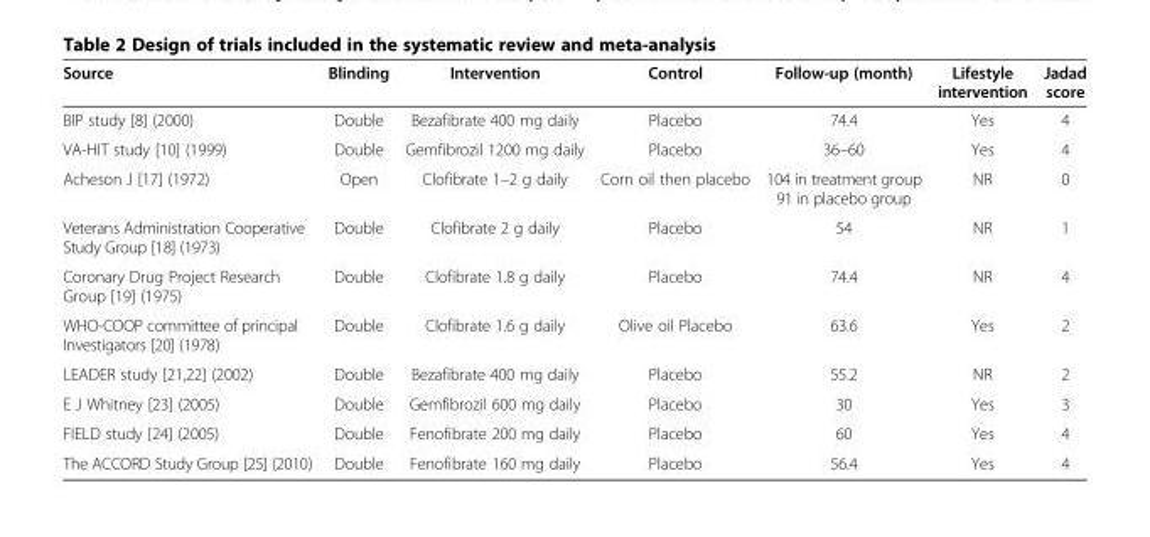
<table><thead><tr><td>Source</td><td>Blinding</td><td>Intervention</td><td>Control</td><td>Follow-up (month)</td><td>Lifestyle intervention</td><td>Jadad score</td></tr></thead><tbody><tr><td>BIP study [8] (2000)</td><td>Double</td><td>Bezafibrate 400 mg daily</td><td>Placebo</td><td>74.4</td><td>Yes</td><td>4</td></tr><tr><td>VA-HIT study [10] (1999)</td><td>Double</td><td>Gemfibrozil 1200 mg daily</td><td>Placebo</td><td>36–60</td><td>Yes</td><td>4</td></tr><tr><td>Acheson J [17] (1972)</td><td>Open</td><td>Clofibrate 1–2 g daily</td><td>Corn oil then placebo</td><td>104 in treatment group 91 in placebo group</td><td>NR</td><td>0</td></tr><tr><td>Veterans Administration Cooperative Study Group [18] (1973)</td><td>Double</td><td>Clofibrate 2 g daily</td><td>Placebo</td><td>54</td><td>NR</td><td>1</td></tr><tr><td>Coronary Drug Project Research Group [19] (1975)</td><td>Double</td><td>Clofibrate 1.8 g daily</td><td>Placebo</td><td>74.4</td><td>NR</td><td>4</td></tr><tr><td>WHO-COOP committee of principal Investigators [20] (1978)</td><td>Double</td><td>Clofibrate 1.6 g daily</td><td>Olive oil Placebo</td><td>63.6</td><td>Yes</td><td>2</td></tr><tr><td>LEADER study [21,22] (2002)</td><td>Double</td><td>Bezafibrate 400 mg daily</td><td>Placebo</td><td>55.2</td><td>NR</td><td>2</td></tr><tr><td>E J Whitney [23] (2005)</td><td>Double</td><td>Gemfibrozil 600 mg daily</td><td>Placebo</td><td>30</td><td>Yes</td><td>3</td></tr><tr><td>FIELD study [24] (2005)</td><td>Double</td><td>Fenofibrate 200 mg daily</td><td>Placebo</td><td>60</td><td>Yes</td><td>4</td></tr><tr><td>The ACCORD Study Group [25] (2010)</td><td>Double</td><td>Fenofibrate 160 mg daily</td><td>Placebo</td><td>56.4</td><td>Yes</td><td>4</td></tr></tbody></table>